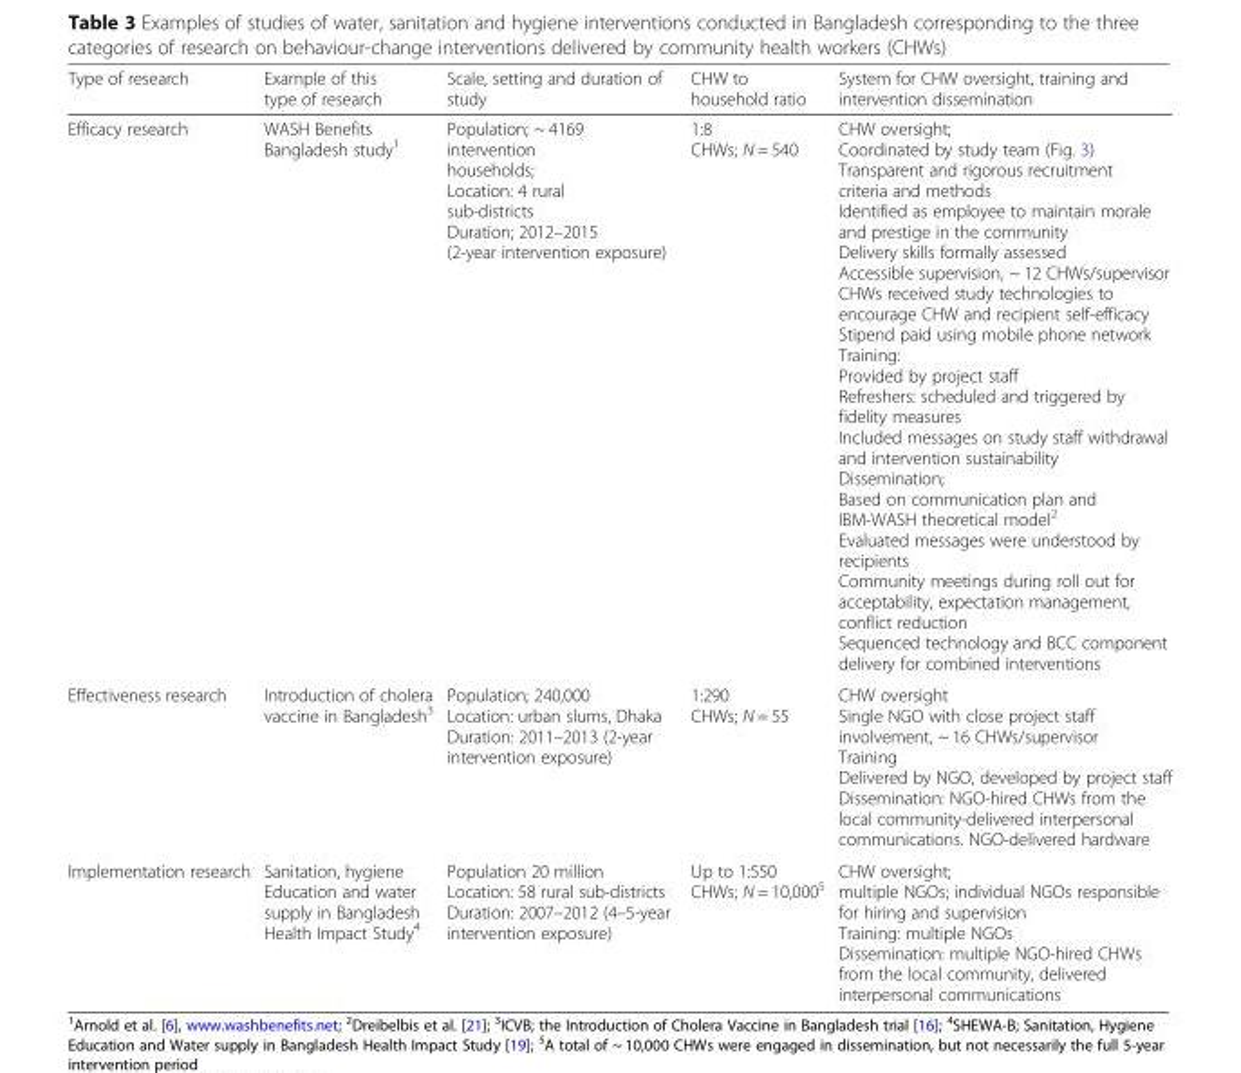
<table><thead><tr><td>Type of research</td><td>Example of this type of research</td><td>Scale, setting and duration of study</td><td>CHW to household ratio</td><td>System for CHW oversight, training and intervention dissemination</td></tr></thead><tbody><tr><td>Efficacy research</td><td>WASH Benefits Bangladesh study<sup>1</sup></td><td>Population; ~ 4169 intervention households; Location: 4 rural sub-districts Duration; 2012–2015 (2-year intervention exposure)</td><td>1:8 CHWs; N = 540</td><td>CHW oversight; Coordinated by study team (Fig. 3) Transparent and rigorous recruitment criteria and methods Identified as employee to maintain morale and prestige in the community Delivery skills formally assessed Accessible supervision, ~ 12 CHWs/supervisor CHWs received study technologies to encourage CHW and recipient self-efficacy Stipend paid using mobile phone network Training: Provided by project staff Refreshers: scheduled and triggered by fidelity measures Included messages on study staff withdrawal and intervention sustainability Dissemination; Based on communication plan and IBM-WASH theoretical model<sup>2</sup> Evaluated messages were understood by recipients Community meetings during roll out for acceptability, expectation management, conflict reduction Sequenced technology and BCC component delivery for combined interventions</td></tr><tr><td>Effectiveness research</td><td>Introduction of cholera vaccine in Bangladesh<sup>3</sup></td><td>Population; 240,000 Location: urban slums, Dhaka Duration: 2011–2013 (2-year intervention exposure)</td><td>1:290 CHWs; N = 55</td><td>CHW oversight Single NGO with close project staff involvement, ~ 16 CHWs/supervisor Training Delivered by NGO, developed by project staff Dissemination: NGO-hired CHWs from the local community-delivered interpersonal communications. NGO-delivered hardware</td></tr><tr><td>Implementation research</td><td>Sanitation, hygiene Education and water supply in Bangladesh Health Impact Study<sup>4</sup></td><td>Population 20 million Location: 58 rural sub-districts Duration: 2007–2012 (4–5-year intervention exposure)</td><td>Up to 1:550 CHWs; N = 10,000<sup>5</sup></td><td>CHW oversight; multiple NGOs; individual NGOs responsible for hiring and supervision Training: multiple NGOs Dissemination: multiple NGO-hired CHWs from the local community, delivered interpersonal communications</td></tr></tbody></table>